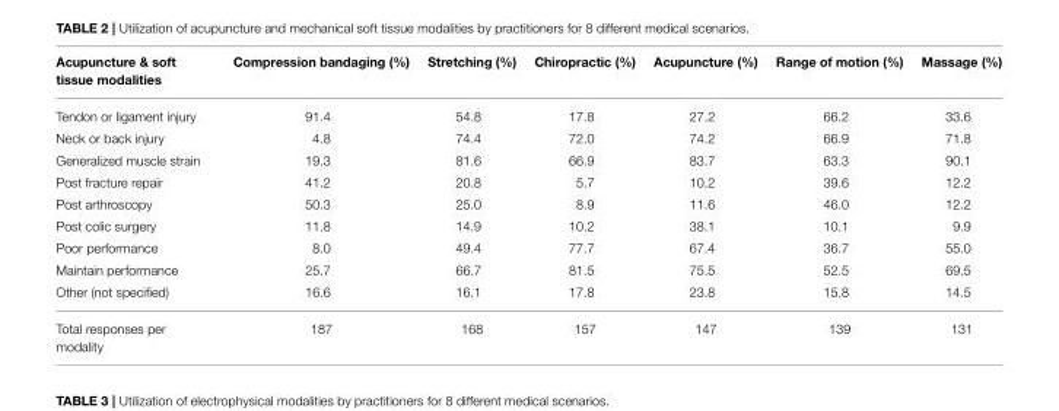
<table><thead><tr><td>Acupuncture &amp; soft tissue modalities</td><td>Compression bandaging (%)</td><td>Stretching (%)</td><td>Chiropractic (%)</td><td>Acupuncture (%)</td><td>Range of motion (%)</td><td>Massage (%)</td></tr></thead><tbody><tr><td>Tendon or ligament injury</td><td>91.4</td><td>54.8</td><td>17.8</td><td>27.2</td><td>66.2</td><td>33.6</td></tr><tr><td>Neck or back injury</td><td>4.8</td><td>74.4</td><td>72.0</td><td>74.2</td><td>66.9</td><td>71.8</td></tr><tr><td>Generalized muscle strain</td><td>19.3</td><td>81.6</td><td>66.9</td><td>83.7</td><td>63.3</td><td>90.1</td></tr><tr><td>Post fracture repair</td><td>41.2</td><td>20.8</td><td>5.7</td><td>10.2</td><td>39.6</td><td>12.2</td></tr><tr><td>Post arthroscopy</td><td>50.3</td><td>25.0</td><td>8.9</td><td>11.6</td><td>46.0</td><td>12.2</td></tr><tr><td>Post colic surgery</td><td>11.8</td><td>14.9</td><td>10.2</td><td>38.1</td><td>10.1</td><td>9.9</td></tr><tr><td>Poor performance</td><td>8.0</td><td>49.4</td><td>77.7</td><td>67.4</td><td>36.7</td><td>55.0</td></tr><tr><td>Maintain performance</td><td>25.7</td><td>66.7</td><td>81.5</td><td>75.5</td><td>52.5</td><td>69.5</td></tr><tr><td>Other (not specified)</td><td>16.6</td><td>16.1</td><td>17.8</td><td>23.8</td><td>15.8</td><td>14.5</td></tr><tr><td>Total responses per modality</td><td>187</td><td>168</td><td>157</td><td>147</td><td>139</td><td>131</td></tr></tbody></table>